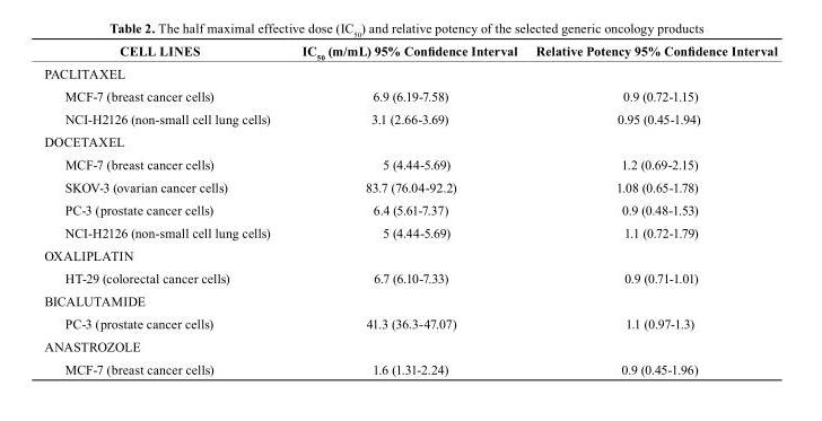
<table><thead><tr><td>cELL LINEs</td><td>Ic<sub>50</sub> (m/mL) 95% Confidence Interval</td><td>Relative Potency 95% Confidence Interval</td></tr></thead><tbody><tr><td colspan="3">PACLITAXEL</td></tr><tr><td>MCF-7 (breast cancer cells)</td><td>6.9 (6.19-7.58)</td><td>0.9 (0.72-1.15)</td></tr><tr><td>NCI-H2126 (non-small cell lung cells)</td><td>3.1 (2.66-3.69)</td><td>0.95 (0.45-1.94)</td></tr><tr><td colspan="3">DOCETAXEL</td></tr><tr><td>MCF-7 (breast cancer cells)</td><td>5 (4.44-5.69)</td><td>1.2 (0.69-2.15)</td></tr><tr><td>SKOV-3 (ovarian cancer cells)</td><td>83.7 (76.04-92.2)</td><td>1.08 (0.65-1.78)</td></tr><tr><td>PC-3 (prostate cancer cells)</td><td>6.4 (5.61-7.37)</td><td>0.9 (0.48-1.53)</td></tr><tr><td>NCI-H2126 (non-small cell lung cells)</td><td>5 (4.44-5.69)</td><td>1.1 (0.72-1.79)</td></tr><tr><td colspan="3">OXALIPLATIN</td></tr><tr><td>HT-29 (colorectal cancer cells)</td><td>6.7 (6.10-7.33)</td><td>0.9 (0.71-1.01)</td></tr><tr><td colspan="3">BICALUTAMIDE</td></tr><tr><td>PC-3 (prostate cancer cells)</td><td>41.3 (36.3-47.07)</td><td>1.1 (0.97-1.3)</td></tr><tr><td colspan="3">ANASTROZOLE</td></tr><tr><td>MCF-7 (breast cancer cells)</td><td>1.6 (1.31-2.24)</td><td>0.9 (0.45-1.96)</td></tr></tbody></table>